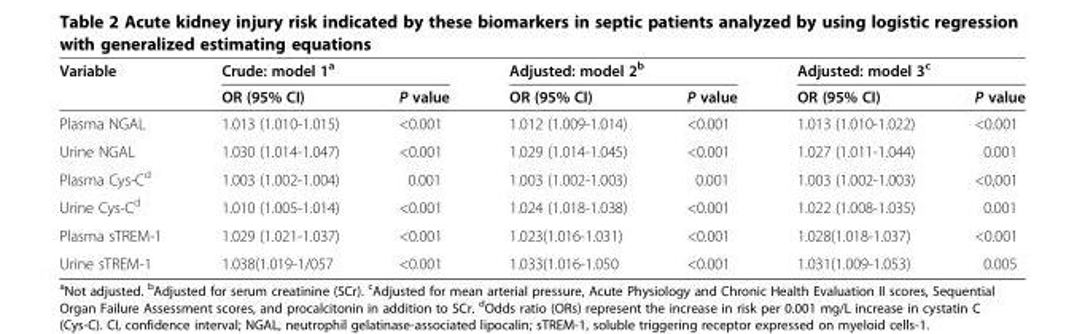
<table><thead><tr><td rowspan="2">Variable</td><td colspan="2">Crude: model 1<sup>a</sup></td><td colspan="2">Adjusted: model 2<sup>b</sup></td><td colspan="2">Adjusted: model 3<sup>c</sup></td></tr><tr><td>OR (95% CI)</td><td>P value</td><td>OR (95% CI)</td><td>P value</td><td>OR (95% CI)</td><td>P value</td></tr></thead><tbody><tr><td>Plasma NGAL</td><td>1.013 (1.010-1.015)</td><td>&lt;0.001</td><td>1.012 (1.009-1.014)</td><td>&lt;0.001</td><td>1.013 (1.010-1.022)</td><td>&lt;0.001</td></tr><tr><td>Urine NGAL</td><td>1.030 (1.014-1.047)</td><td>&lt;0.001</td><td>1.029 (1.014-1.045)</td><td>&lt;0.001</td><td>1.027 (1.011-1.044)</td><td>0.001</td></tr><tr><td>Plasma Cys-C<sup>d</sup></td><td>1.003 (1.002-1.004)</td><td>0.001</td><td>1.003 (1.002-1.003)</td><td>0.001</td><td>1.003 (1.002-1.003)</td><td>&lt;0,001</td></tr><tr><td>Urine Cys-C<sup>d</sup></td><td>1.010 (1.005-1.014)</td><td>&lt;0.001</td><td>1.024 (1.018-1.038)</td><td>&lt;0.001</td><td>1.022 (1.008-1.035)</td><td>0.001</td></tr><tr><td>Plasma sTREM-1</td><td>1.029 (1.021-1.037)</td><td>&lt;0.001</td><td>1.023(1.016-1.031)</td><td>&lt;0.001</td><td>1.028(1.018-1.037)</td><td>&lt;0.001</td></tr><tr><td>Urine sTREM-1</td><td>1.038(1.019-1/057</td><td>&lt;0.001</td><td>1.033(1.016-1.050</td><td>&lt;0.001</td><td>1.031(1.009-1.053)</td><td>0.005</td></tr></tbody></table>